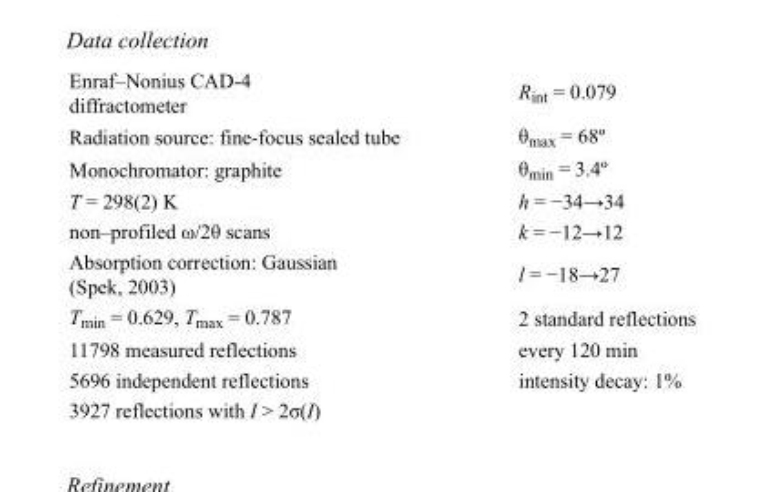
<table><tbody><tr><td>Enraf–Nonius CAD-4 diffractometer</td><td>R<sub>int</sub> = 0.079</td></tr><tr><td>Radiation source: fine-focus sealed tube</td><td>θ<sub>max</sub> = 68º</td></tr><tr><td>Monochromator: graphite</td><td>θ<sub>min</sub> = 3.4º</td></tr><tr><td>T = 298(2) K</td><td>h = −34→34</td></tr><tr><td>non–profiled ω/2θ scans</td><td>k = −12→12</td></tr><tr><td>Absorption correction: Gaussian (Spek, 2003)</td><td>l = −18→27</td></tr><tr><td>T<sub>min</sub> = 0.629, T<sub>max</sub> = 0.787</td><td>2 standard reflections</td></tr><tr><td>11798 measured reflections</td><td>every 120 min</td></tr><tr><td>5696 independent reflections</td><td>intensity decay: 1%</td></tr><tr><td>3927 reflections with I &gt; 2σ(I)</td><td></td></tr></tbody></table>